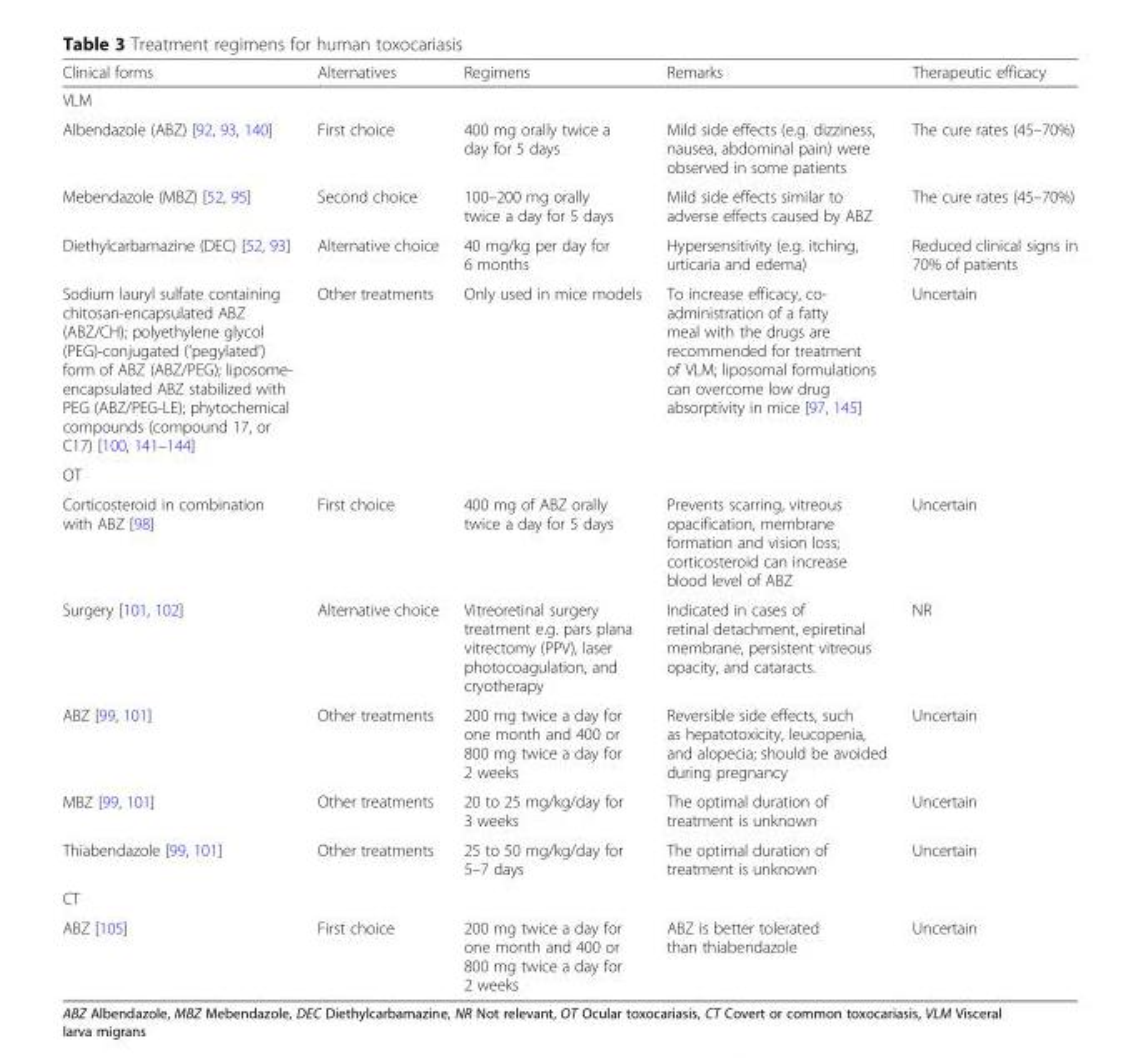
<table><thead><tr><td>Clinical forms</td><td>Alternatives</td><td>Regimens</td><td>Remarks</td><td>Therapeutic efficacy</td></tr></thead><tbody><tr><td colspan="5">VLM</td></tr><tr><td>Albendazole (ABZ) [92, 93, 140]</td><td>First choice</td><td>400 mg orally twice a day for 5 days</td><td>Mild side effects (e.g. dizziness, nausea, abdominal pain) were observed in some patients</td><td>The cure rates (45–70%)</td></tr><tr><td>Mebendazole (MBZ) [52, 95]</td><td>Second choice</td><td>100–200 mg orally twice a day for 5 days</td><td>Mild side effects similar to adverse effects caused by ABZ</td><td>The cure rates (45–70%)</td></tr><tr><td>Diethylcarbamazine (DEC) [52, 93]</td><td>Alternative choice</td><td>40 mg/kg per day for 6 months</td><td>Hypersensitivity (e.g. itching, urticaria and edema)</td><td>Reduced clinical signs in 70% of patients</td></tr><tr><td>Sodium lauryl sulfate containing chitosan-encapsulated ABZ (ABZ/CH); polyethylene glycol (PEG)-conjugated (‘pegylated’) form of ABZ (ABZ/PEG); liposome- encapsulated ABZ stabilized with PEG (ABZ/PEG-LE); phytochemical compounds (compound 17, or C17) [100, 141–144]</td><td>Other treatments</td><td>Only used in mice models</td><td>To increase efficacy, co- administration of a fatty meal with the drugs are recommended for treatment of VLM; liposomal formulations can overcome low drug absorptivity in mice [97, 145]</td><td>Uncertain</td></tr><tr><td colspan="5">OT</td></tr><tr><td>Corticosteroid in combination with ABZ [98]</td><td>First choice</td><td>400 mg of ABZ orally twice a day for 5 days</td><td>Prevents scarring, vitreous opacification, membrane formation and vision loss; corticosteroid can increase blood level of ABZ</td><td>Uncertain</td></tr><tr><td>Surgery [101, 102]</td><td>Alternative choice</td><td>Vitreoretinal surgery treatment e.g. pars plana vitrectomy (PPV), laser photocoagulation, and cryotherapy</td><td>Indicated in cases of retinal detachment, epiretinal membrane, persistent vitreous opacity, and cataracts.</td><td>NR</td></tr><tr><td>ABZ [99, 101]</td><td>Other treatments</td><td>200 mg twice a day for one month and 400 or 800 mg twice a day for 2 weeks</td><td>Reversible side effects, such as hepatotoxicity, leucopenia, and alopecia; should be avoided during pregnancy</td><td>Uncertain</td></tr><tr><td>MBZ [99, 101]</td><td>Other treatments</td><td>20 to 25 mg/kg/day for 3 weeks</td><td>The optimal duration of treatment is unknown</td><td>Uncertain</td></tr><tr><td>Thiabendazole [99, 101]</td><td>Other treatments</td><td>25 to 50 mg/kg/day for 5–7 days</td><td>The optimal duration of treatment is unknown</td><td>Uncertain</td></tr><tr><td colspan="5">CT</td></tr><tr><td>ABZ [105]</td><td>First choice</td><td>200 mg twice a day for one month and 400 or 800 mg twice a day for 2 weeks</td><td>ABZ is better tolerated than thiabendazole</td><td>Uncertain</td></tr></tbody></table>